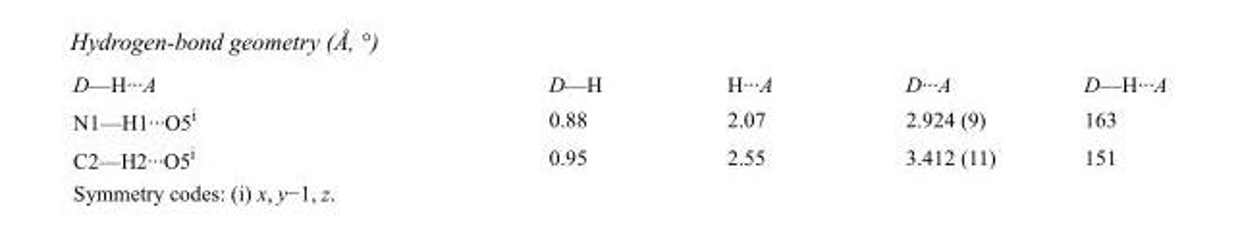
<table><tbody><tr><td>D—H···A</td><td>D—H</td><td>H···A</td><td>D···A</td><td>D—H···A</td></tr><tr><td>N1—H1···O5<sup>i</sup></td><td>0.88</td><td>2.07</td><td>2.924 (9)</td><td>163</td></tr><tr><td>C2—H2···O5<sup>i</sup></td><td>0.95</td><td>2.55</td><td>3.412 (11)</td><td>151</td></tr></tbody></table>